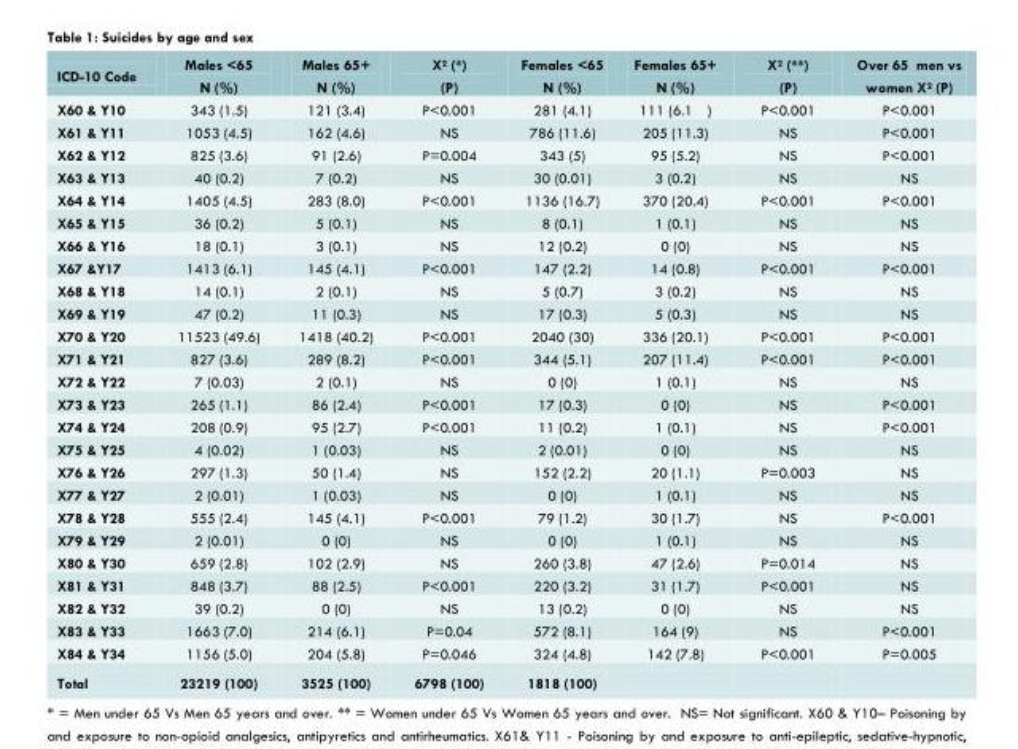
<table><thead><tr><td>ICD-10 Code</td><td>Males &lt;65 N (%)</td><td>Males 65+ N (%)</td><td>X2 (*) (P)</td><td>Females &lt;65 N (%)</td><td>Females 65+ N (%)</td><td>X2 (**) (P)</td><td>Over 65 men vs women X2 (P)</td></tr></thead><tbody><tr><td>X60 &amp; Y10</td><td>343 (1.5)</td><td>121 (3.4)</td><td>P&lt;0.001</td><td>281 (4.1)</td><td>111 (6.1 )</td><td>P&lt;0.001</td><td>P&lt;0.001</td></tr><tr><td>X61 &amp; Y11</td><td>1053 (4.5)</td><td>162 (4.6)</td><td>NS</td><td>786 (11.6)</td><td>205 (11.3)</td><td>NS</td><td>P&lt;0.001</td></tr><tr><td>X62 &amp; Y12</td><td>825 (3.6)</td><td>91 (2.6)</td><td>P=0.004</td><td>343 (5)</td><td>95 (5.2)</td><td>NS</td><td>P&lt;0.001</td></tr><tr><td>X63 &amp; Y13</td><td>40 (0.2)</td><td>7 (0.2)</td><td>NS</td><td>30 (0.01)</td><td>3 (0.2)</td><td>NS</td><td>NS</td></tr><tr><td>X64 &amp; Y14</td><td>1405 (4.5)</td><td>283 (8.0)</td><td>P&lt;0.001</td><td>1136 (16.7)</td><td>370 (20.4)</td><td>P&lt;0.001</td><td>P&lt;0.001</td></tr><tr><td>X65 &amp; Y15</td><td>36 (0.2)</td><td>5 (0.1)</td><td>NS</td><td>8 (0.1)</td><td>1 (0.1)</td><td>NS</td><td>NS</td></tr><tr><td>X66 &amp; Y16</td><td>18 (0.1)</td><td>3 (0.1)</td><td>NS</td><td>12 (0.2)</td><td>0 (0)</td><td>NS</td><td>NS</td></tr><tr><td>X67 &amp;Y17</td><td>1413 (6.1)</td><td>145 (4.1)</td><td>P&lt;0.001</td><td>147 (2.2)</td><td>14 (0.8)</td><td>P&lt;0.001</td><td>P&lt;0.001</td></tr><tr><td>X68 &amp; Y18</td><td>14 (0.1)</td><td>2 (0.1)</td><td>NS</td><td>5 (0.7)</td><td>3 (0.2)</td><td>NS</td><td>NS</td></tr><tr><td>X69 &amp; Y19</td><td>47 (0.2)</td><td>11 (0.3)</td><td>NS</td><td>17 (0.3)</td><td>5 (0.3)</td><td>NS</td><td>NS</td></tr><tr><td>X70 &amp; Y20</td><td>11523 (49.6)</td><td>1418 (40.2)</td><td>P&lt;0.001</td><td>2040 (30)</td><td>336 (20.1)</td><td>P&lt;0.001</td><td>P&lt;0.001</td></tr><tr><td>X71 &amp; Y21</td><td>827 (3.6)</td><td>289 (8.2)</td><td>P&lt;0.001</td><td>344 (5.1)</td><td>207 (11.4)</td><td>P&lt;0.001</td><td>P&lt;0.001</td></tr><tr><td>X72 &amp; Y22</td><td>7 (0.03)</td><td>2 (0.1)</td><td>NS</td><td>0 (0)</td><td>1 (0.1)</td><td>NS</td><td>NS</td></tr><tr><td>X73 &amp; Y23</td><td>265 (1.1)</td><td>86 (2.4)</td><td>P&lt;0.001</td><td>17 (0.3)</td><td>0 (0)</td><td>NS</td><td>P&lt;0.001</td></tr><tr><td>X74 &amp; Y24</td><td>208 (0.9)</td><td>95 (2.7)</td><td>P&lt;0.001</td><td>11 (0.2)</td><td>1 (0.1)</td><td>NS</td><td>P&lt;0.001</td></tr><tr><td>X75 &amp; Y25</td><td>4 (0.02)</td><td>1 (0.03)</td><td>NS</td><td>2 (0.01)</td><td>0 (0)</td><td>NS</td><td>NS</td></tr><tr><td>X76 &amp; Y26</td><td>297 (1.3)</td><td>50 (1.4)</td><td>NS</td><td>152 (2.2)</td><td>20 (1.1)</td><td>P=0.003</td><td>NS</td></tr><tr><td>X77 &amp; Y27</td><td>2 (0.01)</td><td>1 (0.03)</td><td>NS</td><td>0 (0)</td><td>1 (0.1)</td><td>NS</td><td>NS</td></tr><tr><td>X78 &amp; Y28</td><td>555 (2.4)</td><td>145 (4.1)</td><td>P&lt;0.001</td><td>79 (1.2)</td><td>30 (1.7)</td><td>NS</td><td>P&lt;0.001</td></tr><tr><td>X79 &amp; Y29</td><td>2 (0.01)</td><td>0 (0)</td><td>NS</td><td>0 (0)</td><td>1 (0.1)</td><td>NS</td><td>NS</td></tr><tr><td>X80 &amp; Y30</td><td>659 (2.8)</td><td>102 (2.9)</td><td>NS</td><td>260 (3.8)</td><td>47 (2.6)</td><td>P=0.014</td><td>NS</td></tr><tr><td>X81 &amp; Y31</td><td>848 (3.7)</td><td>88 (2.5)</td><td>P&lt;0.001</td><td>220 (3.2)</td><td>31 (1.7)</td><td>P&lt;0.001</td><td>NS</td></tr><tr><td>X82 &amp; Y32</td><td>39 (0.2)</td><td>0 (0)</td><td>NS</td><td>13 (0.2)</td><td>0 (0)</td><td>NS</td><td>NS</td></tr><tr><td>X83 &amp; Y33</td><td>1663 (7.0)</td><td>214 (6.1)</td><td>P=0.04</td><td>572 (8.1)</td><td>164 (9)</td><td>NS</td><td>P&lt;0.001</td></tr><tr><td>X84 &amp; Y34</td><td>1156 (5.0)</td><td>204 (5.8)</td><td>P=0.046</td><td>324 (4.8)</td><td>142 (7.8)</td><td>P&lt;0.001</td><td>P=0.005</td></tr><tr><td>Total</td><td>23219 (100)</td><td>3525 (100)</td><td>6798 (100)</td><td>1818 (100)</td><td></td><td></td><td></td></tr></tbody></table>